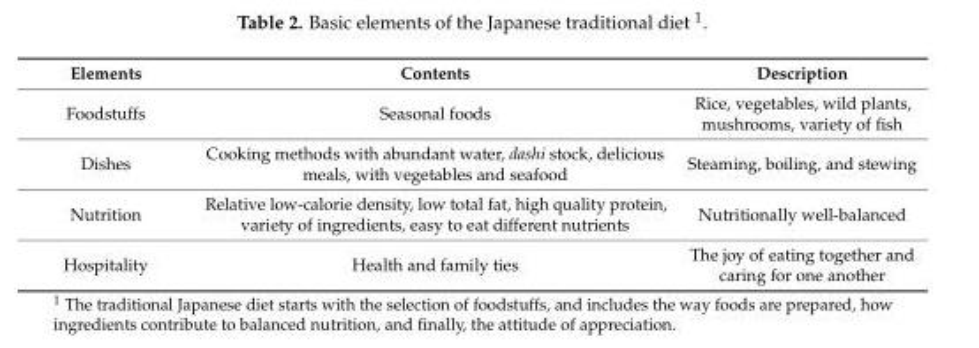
<table><thead><tr><td>Elements</td><td>Contents</td><td>Description</td></tr></thead><tbody><tr><td>Foodstuffs</td><td>Seasonal foods</td><td>Rice, vegetables, wild plants, mushrooms, variety of fish</td></tr><tr><td>Dishes</td><td>Cooking methods with abundant water, dashi stock, delicious meals, with vegetables and seafood</td><td>Steaming, boiling, and stewing</td></tr><tr><td>Nutrition</td><td>Relative low-calorie density, low total fat, high quality protein, variety of ingredients, easy to eat different nutrients</td><td>Nutritionally well-balanced</td></tr><tr><td>Hospitality</td><td>Health and family ties</td><td>The joy of eating together and caring for one another</td></tr></tbody></table>